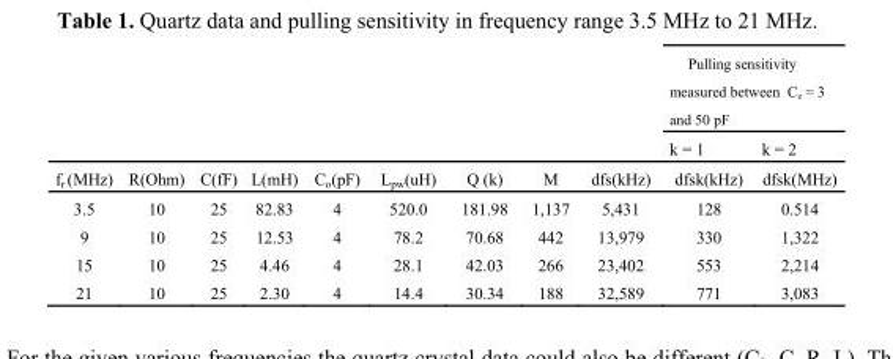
<table><thead><tr><td rowspan="3">f<sub>r</sub> (MHz)</td><td rowspan="3">R(Ohm)</td><td rowspan="3">C(fF)</td><td rowspan="3">L(mH)</td><td rowspan="3">C<sub>o</sub>(pF)</td><td rowspan="3">L<sub>pw</sub>(uH)</td><td rowspan="3">Q (k)</td><td rowspan="3">M</td><td rowspan="3">dfs(kHz)</td><td colspan="2">Pulling sensitivity measured between Cz = 3 and 50 pF</td></tr><tr><td rowspan="2">k = 1 dfsk(kHz)</td><td rowspan="2">k = 2 dfsk(MHz)</td></tr><tr></tr></thead><tbody><tr><td>3.5</td><td>10</td><td>25</td><td>82.83</td><td>4</td><td>520.0</td><td>181.98</td><td>1,137</td><td>5,431</td><td>128</td><td>0.514</td></tr><tr><td>9</td><td>10</td><td>25</td><td>12.53</td><td>4</td><td>78.2</td><td>70.68</td><td>442</td><td>13,979</td><td>330</td><td>1,322</td></tr><tr><td>15</td><td>10</td><td>25</td><td>4.46</td><td>4</td><td>28.1</td><td>42.03</td><td>266</td><td>23,402</td><td>553</td><td>2,214</td></tr><tr><td>21</td><td>10</td><td>25</td><td>2.30</td><td>4</td><td>14.4</td><td>30.34</td><td>188</td><td>32,589</td><td>771</td><td>3,083</td></tr></tbody></table>